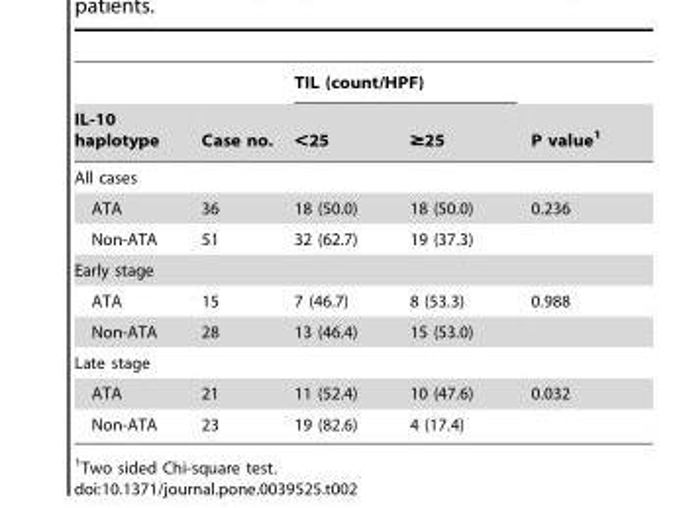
<table><thead><tr><td rowspan="2">IL-10 haplotype</td><td rowspan="2">Case no.</td><td colspan="2">TIL (count/HPF)</td><td rowspan="2">P value<sup>1</sup></td></tr><tr><td>&lt;25</td><td>≥25</td></tr></thead><tbody><tr><td colspan="5">All cases</td></tr><tr><td>ATA</td><td>36</td><td>18 (50.0)</td><td>18 (50.0)</td><td>0.236</td></tr><tr><td>Non-ATA</td><td>51</td><td>32 (62.7)</td><td>19 (37.3)</td><td></td></tr><tr><td colspan="5">Early stage</td></tr><tr><td>ATA</td><td>15</td><td>7 (46.7)</td><td>8 (53.3)</td><td>0.988</td></tr><tr><td>Non-ATA</td><td>28</td><td>13 (46.4)</td><td>15 (53.0)</td><td></td></tr><tr><td colspan="5">Late stage</td></tr><tr><td>ATA</td><td>21</td><td>11 (52.4)</td><td>10 (47.6)</td><td>0.032</td></tr><tr><td>Non-ATA</td><td>23</td><td>19 (82.6)</td><td>4 (17.4)</td><td></td></tr></tbody></table>